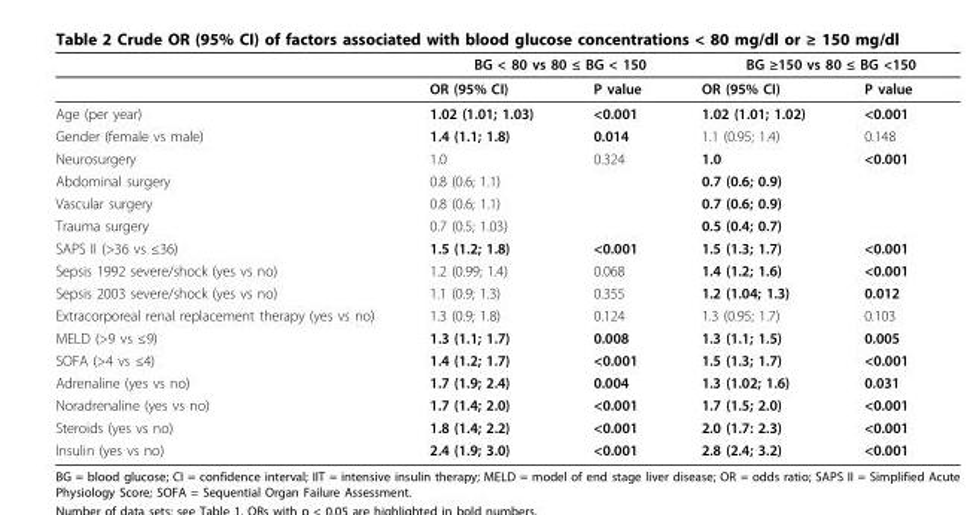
<table><thead><tr><td rowspan="2"></td><td colspan="2">BG &lt; 80 vs 80 ≤ BG &lt; 150</td><td colspan="2">BG ≥150 vs 80 ≤ BG &lt;150</td></tr><tr><td>OR (95% CI)</td><td>P value</td><td>OR (95% CI)</td><td>P value</td></tr></thead><tbody><tr><td>Age (per year)</td><td>1.02 (1.01; 1.03)</td><td>&lt;0.001</td><td>1.02 (1.01; 1.02)</td><td>&lt;0.001</td></tr><tr><td>Gender (female vs male)</td><td>1.4 (1.1; 1.8)</td><td>0.014</td><td>1.1 (0.95; 1.4)</td><td>0.148</td></tr><tr><td>Neurosurgery</td><td>1.0</td><td>0.324</td><td>1.0</td><td>&lt;0.001</td></tr><tr><td>Abdominal surgery</td><td>0.8 (0.6; 1.1)</td><td></td><td>0.7 (0.6; 0.9)</td><td></td></tr><tr><td>Vascular surgery</td><td>0.8 (0.6; 1.1)</td><td></td><td>0.7 (0.6; 0.9)</td><td></td></tr><tr><td>Trauma surgery</td><td>0.7 (0.5; 1.03)</td><td></td><td>0.5 (0.4; 0.7)</td><td></td></tr><tr><td>SAPS II (&gt;36 vs ≤36)</td><td>1.5 (1.2; 1.8)</td><td>&lt;0.001</td><td>1.5 (1.3; 1.7)</td><td>&lt;0.001</td></tr><tr><td>Sepsis 1992 severe/shock (yes vs no)</td><td>1.2 (0.99; 1.4)</td><td>0.068</td><td>1.4 (1.2; 1.6)</td><td>&lt;0.001</td></tr><tr><td>Sepsis 2003 severe/shock (yes vs no)</td><td>1.1 (0.9; 1.3)</td><td>0.355</td><td>1.2 (1.04; 1.3)</td><td>0.012</td></tr><tr><td>Extracorporeal renal replacement therapy (yes vs no)</td><td>1.3 (0.9; 1.8)</td><td>0.124</td><td>1.3 (0.95; 1.7)</td><td>0.103</td></tr><tr><td>MELD (&gt;9 vs ≤9)</td><td>1.3 (1.1; 1.7)</td><td>0.008</td><td>1.3 (1.1; 1.5)</td><td>0.005</td></tr><tr><td>SOFA (&gt;4 vs ≤4)</td><td>1.4 (1.2; 1.7)</td><td>&lt;0.001</td><td>1.5 (1.3; 1.7)</td><td>&lt;0.001</td></tr><tr><td>Adrenaline (yes vs no)</td><td>1.7 (1.9; 2.4)</td><td>0.004</td><td>1.3 (1.02; 1.6)</td><td>0.031</td></tr><tr><td>Noradrenaline (yes vs no)</td><td>1.7 (1.4; 2.0)</td><td>&lt;0.001</td><td>1.7 (1.5; 2.0)</td><td>&lt;0.001</td></tr><tr><td>Steroids (yes vs no)</td><td>1.8 (1.4; 2.2)</td><td>&lt;0.001</td><td>2.0 (1.7: 2.3)</td><td>&lt;0.001</td></tr><tr><td>Insulin (yes vs no)</td><td>2.4 (1.9; 3.0)</td><td>&lt;0.001</td><td>2.8 (2.4; 3.2)</td><td>&lt;0.001</td></tr></tbody></table>